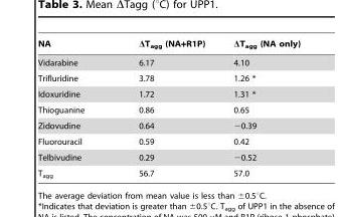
<table><thead><tr><td>NA</td><td>ΔT<sub>agg</sub> (NA+R1P)</td><td>ΔT<sub>agg</sub> (NA only)</td></tr></thead><tbody><tr><td>Vidarabine</td><td>6.17</td><td>4.10</td></tr><tr><td>Trifluridine</td><td>3.78</td><td>1.26 *</td></tr><tr><td>Idoxuridine</td><td>1.72</td><td>1.31 *</td></tr><tr><td>Thioguanine</td><td>0.86</td><td>0.65</td></tr><tr><td>Zidovudine</td><td>0.64</td><td>−0.39</td></tr><tr><td>Fluorouracil</td><td>0.59</td><td>0.42</td></tr><tr><td>Telbivudine</td><td>0.29</td><td>−0.52</td></tr><tr><td>T<sub>agg</sub></td><td>56.7</td><td>57.0</td></tr></tbody></table>